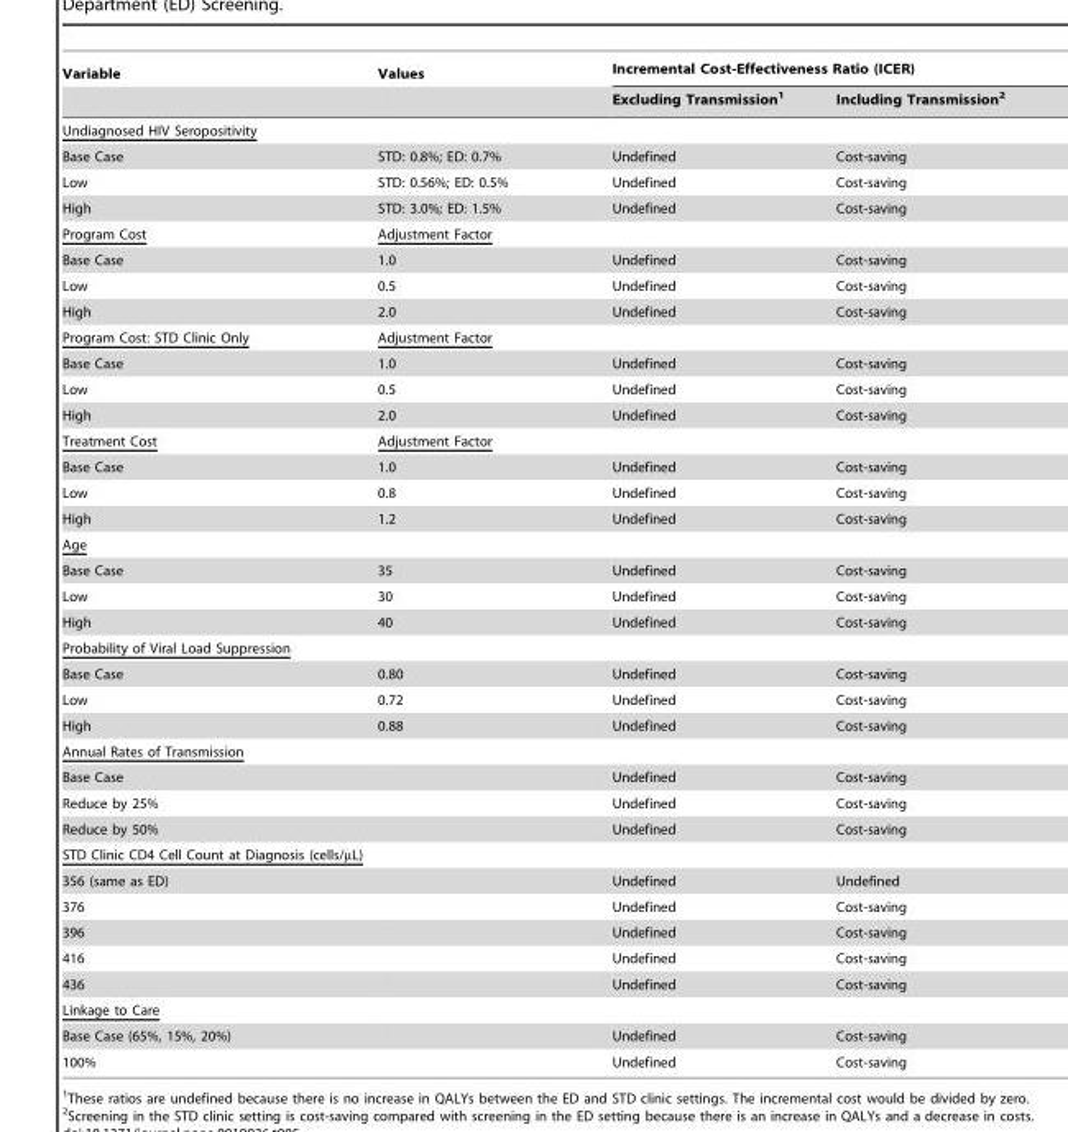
<table><thead><tr><td rowspan="2">Variable</td><td rowspan="2">Values</td><td colspan="2">Incremental Cost-Effectiveness Ratio (ICER)</td></tr><tr><td>Excluding Transmission<sup>1</sup></td><td>Including Transmission<sup>2</sup></td></tr></thead><tbody><tr><td colspan="4">Undiagnosed HIV Seropositivity</td></tr><tr><td>Base Case</td><td>STD: 0.8%; ED: 0.7%</td><td>Undefined</td><td>Cost-saving</td></tr><tr><td>Low</td><td>STD: 0.56%; ED: 0.5%</td><td>Undefined</td><td>Cost-saving</td></tr><tr><td>High</td><td>STD: 3.0%; ED: 1.5%</td><td>Undefined</td><td>Cost-saving</td></tr><tr><td>Program Cost</td><td>Adjustment Factor</td><td></td><td></td></tr><tr><td>Base Case</td><td>1.0</td><td>Undefined</td><td>Cost-saving</td></tr><tr><td>Low</td><td>0.5</td><td>Undefined</td><td>Cost-saving</td></tr><tr><td>High</td><td>2.0</td><td>Undefined</td><td>Cost-saving</td></tr><tr><td>Program Cost: STD Clinic Only</td><td>Adjustment Factor</td><td></td><td></td></tr><tr><td>Base Case</td><td>1.0</td><td>Undefined</td><td>Cost-saving</td></tr><tr><td>Low</td><td>0.5</td><td>Undefined</td><td>Cost-saving</td></tr><tr><td>High</td><td>2.0</td><td>Undefined</td><td>Cost-saving</td></tr><tr><td>Treatment Cost</td><td>Adjustment Factor</td><td></td><td></td></tr><tr><td>Base Case</td><td>1.0</td><td>Undefined</td><td>Cost-saving</td></tr><tr><td>Low</td><td>0.8</td><td>Undefined</td><td>Cost-saving</td></tr><tr><td>High</td><td>1.2</td><td>Undefined</td><td>Cost-saving</td></tr><tr><td colspan="4">Age</td></tr><tr><td>Base Case</td><td>35</td><td>Undefined</td><td>Cost-saving</td></tr><tr><td>Low</td><td>30</td><td>Undefined</td><td>Cost-saving</td></tr><tr><td>High</td><td>40</td><td>Undefined</td><td>Cost-saving</td></tr><tr><td colspan="4">Probability of Viral Load Suppression</td></tr><tr><td>Base Case</td><td>0.80</td><td>Undefined</td><td>Cost-saving</td></tr><tr><td>Low</td><td>0.72</td><td>Undefined</td><td>Cost-saving</td></tr><tr><td>High</td><td>0.88</td><td>Undefined</td><td>Cost-saving</td></tr><tr><td colspan="4">Annual Rates of Transmission</td></tr><tr><td>Base Case</td><td></td><td>Undefined</td><td>Cost-saving</td></tr><tr><td>Reduce by 25%</td><td></td><td>Undefined</td><td>Cost-saving</td></tr><tr><td>Reduce by 50%</td><td></td><td>Undefined</td><td>Cost-saving</td></tr><tr><td colspan="4">STD Clinic CD4 Cell Count at Diagnosis (cells/µL)</td></tr><tr><td>356 (same as ED)</td><td></td><td>Undefined</td><td>Undefined</td></tr><tr><td>376</td><td></td><td>Undefined</td><td>Cost-saving</td></tr><tr><td>396</td><td></td><td>Undefined</td><td>Cost-saving</td></tr><tr><td>416</td><td></td><td>Undefined</td><td>Cost-saving</td></tr><tr><td>436</td><td></td><td>Undefined</td><td>Cost-saving</td></tr><tr><td colspan="4">Linkage to Care</td></tr><tr><td>Base Case (65%, 15%, 20%)</td><td></td><td>Undefined</td><td>Cost-saving</td></tr><tr><td>100%</td><td></td><td>Undefined</td><td>Cost-saving</td></tr></tbody></table>